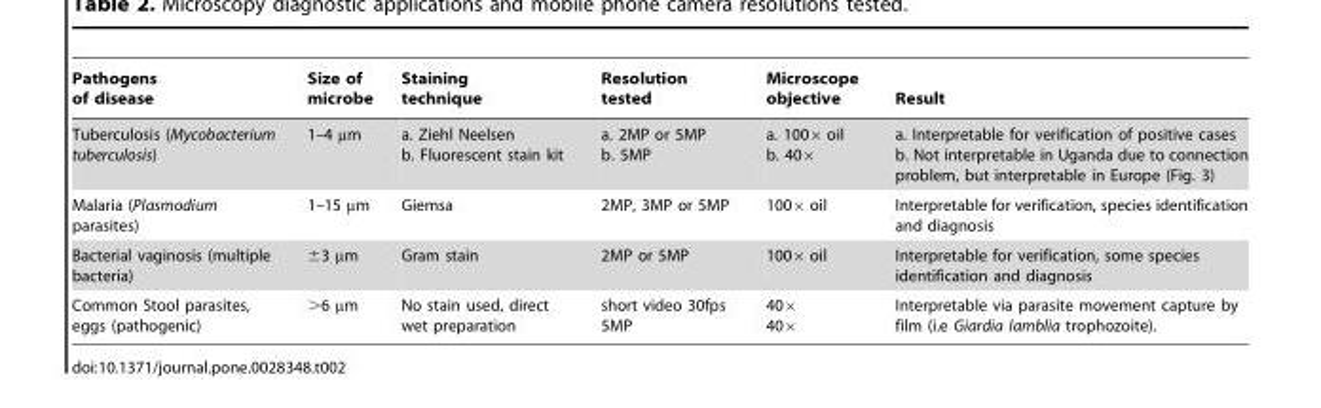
<table><thead><tr><td>Pathogens of disease</td><td>Size of microbe</td><td>Staining technique</td><td>Resolution tested</td><td>Microscope objective</td><td>Result</td></tr></thead><tbody><tr><td>Tuberculosis (Mycobacterium tuberculosis)</td><td>1–4 µm</td><td>a. Ziehl Neelsen b. Fluorescent stain kit</td><td>a. 2MP or 5MP b. 5MP</td><td>a. 100× oil b. 40×</td><td>a. Interpretable for verification of positive cases b. Not interpretable in Uganda due to connection problem, but interpretable in Europe (Fig. 3)</td></tr><tr><td>Malaria (Plasmodium parasites)</td><td>1–15 µm</td><td>Giemsa</td><td>2MP, 3MP or 5MP</td><td>100× oil</td><td>Interpretable for verification, species identification and diagnosis</td></tr><tr><td>Bacterial vaginosis (multiple bacteria)</td><td>±3 µm</td><td>Gram stain</td><td>2MP or 5MP</td><td>100× oil</td><td>Interpretable for verification, some species identification and diagnosis</td></tr><tr><td>Common Stool parasites, eggs (pathogenic)</td><td>&gt;6 µm</td><td>No stain used, direct wet preparation</td><td>short video 30fps 5MP</td><td>40× 40×</td><td>Interpretable via parasite movement capture by film (i.e Giardia lamblia trophozoite).</td></tr></tbody></table>